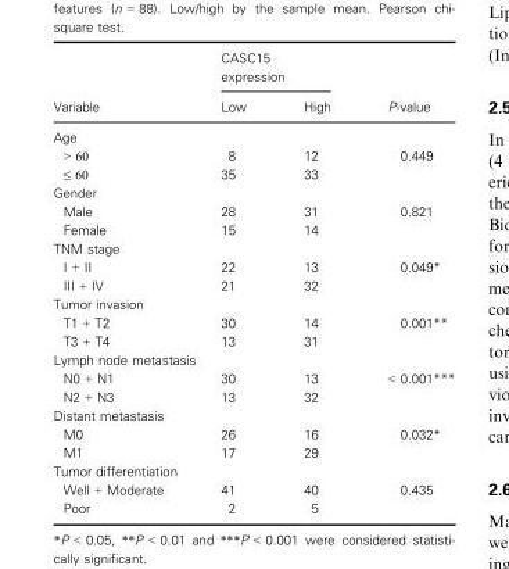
<table><thead><tr><td rowspan="2">Variable</td><td colspan="2">CASC15 expression</td><td rowspan="2">P-value</td></tr><tr><td>Low</td><td>High</td></tr></thead><tbody><tr><td colspan="4">Age</td></tr><tr><td>&gt; 60</td><td>8</td><td>12</td><td rowspan="2">0.449</td></tr><tr><td>≤ 60</td><td>35</td><td>33</td></tr><tr><td colspan="4">Gender</td></tr><tr><td>Male</td><td>28</td><td>31</td><td rowspan="2">0.821</td></tr><tr><td>Female</td><td>15</td><td>14</td></tr><tr><td colspan="4">TNM stage</td></tr><tr><td>I + II</td><td>22</td><td>13</td><td rowspan="2">0.049*</td></tr><tr><td>III + IV</td><td>21</td><td>32</td></tr><tr><td colspan="4">Tumor invasion</td></tr><tr><td>T1 + T2</td><td>30</td><td>14</td><td rowspan="2">0.001**</td></tr><tr><td>T3 + T4</td><td>13</td><td>31</td></tr><tr><td colspan="4">Lymph node metastasis</td></tr><tr><td>N0 + N1</td><td>30</td><td>13</td><td rowspan="2">&lt; 0.001***</td></tr><tr><td>N2 + N3</td><td>13</td><td>32</td></tr><tr><td colspan="4">Distant metastasis</td></tr><tr><td>M0</td><td>26</td><td>16</td><td rowspan="2">0.032*</td></tr><tr><td>M1</td><td>17</td><td>29</td></tr><tr><td colspan="4">Tumor differentiation</td></tr><tr><td>Well + Moderate</td><td>41</td><td>40</td><td rowspan="2">0.435</td></tr><tr><td>Poor</td><td>2</td><td>5</td></tr></tbody></table>